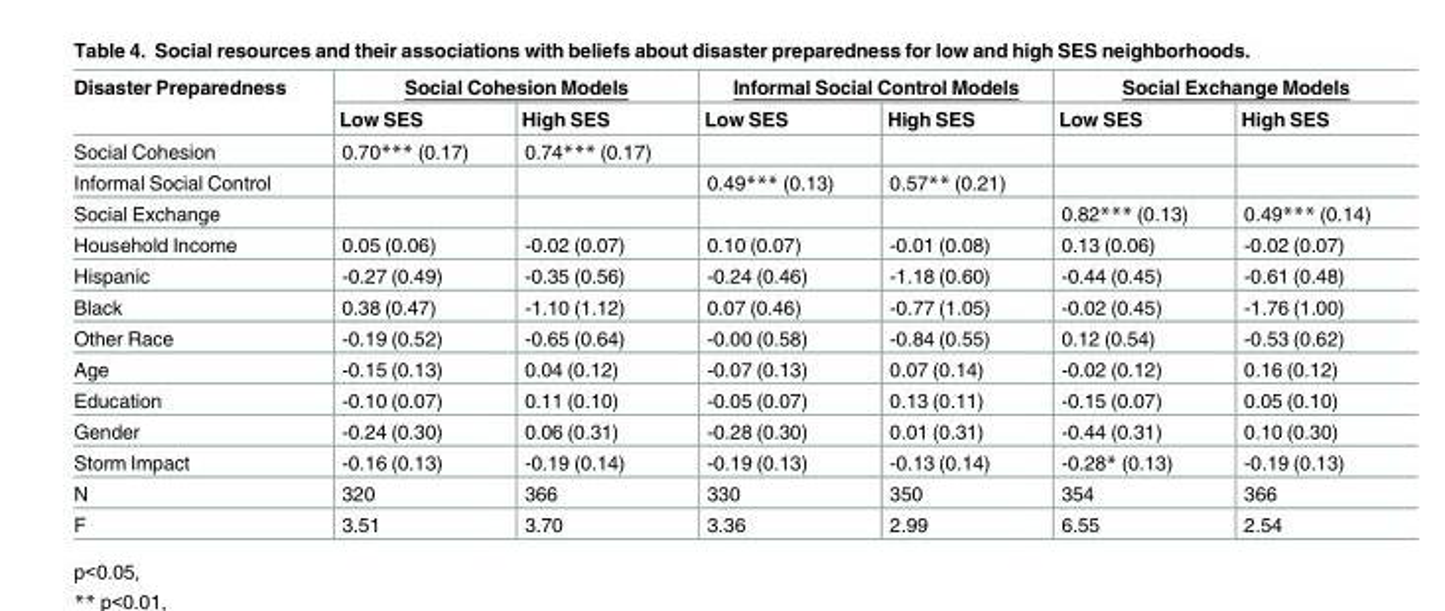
<table><thead><tr><td rowspan="2">Disaster Preparedness</td><td colspan="2">Social Cohesion Models</td><td colspan="2">Informal Social Control Models</td><td colspan="2">Social Exchange Models</td></tr><tr><td>Low SES</td><td>High SES</td><td>Low SES</td><td>High SES</td><td>Low SES</td><td>High SES</td></tr></thead><tbody><tr><td>Social Cohesion</td><td>0.70*** (0.17)</td><td>0.74*** (0.17)</td><td></td><td></td><td></td><td></td></tr><tr><td>Informal Social Control</td><td></td><td></td><td>0.49*** (0.13)</td><td>0.57** (0.21)</td><td></td><td></td></tr><tr><td>Social Exchange</td><td></td><td></td><td></td><td></td><td>0.82*** (0.13)</td><td>0.49*** (0.14)</td></tr><tr><td>Household Income</td><td>0.05 (0.06)</td><td>-0.02 (0.07)</td><td>0.10 (0.07)</td><td>-0.01 (0.08)</td><td>0.13 (0.06)</td><td>-0.02 (0.07)</td></tr><tr><td>Hispanic</td><td>-0.27 (0.49)</td><td>-0.35 (0.56)</td><td>-0.24 (0.46)</td><td>-1.18 (0.60)</td><td>-0.44 (0.45)</td><td>-0.61 (0.48)</td></tr><tr><td>Black</td><td>0.38 (0.47)</td><td>-1.10 (1.12)</td><td>0.07 (0.46)</td><td>-0.77 (1.05)</td><td>-0.02 (0.45)</td><td>-1.76 (1.00)</td></tr><tr><td>Other Race</td><td>-0.19 (0.52)</td><td>-0.65 (0.64)</td><td>-0.00 (0.58)</td><td>-0.84 (0.55)</td><td>0.12 (0.54)</td><td>-0.53 (0.62)</td></tr><tr><td>Age</td><td>-0.15 (0.13)</td><td>0.04 (0.12)</td><td>-0.07 (0.13)</td><td>0.07 (0.14)</td><td>-0.02 (0.12)</td><td>0.16 (0.12)</td></tr><tr><td>Education</td><td>-0.10 (0.07)</td><td>0.11 (0.10)</td><td>-0.05 (0.07)</td><td>0.13 (0.11)</td><td>-0.15 (0.07)</td><td>0.05 (0.10)</td></tr><tr><td>Gender</td><td>-0.24 (0.30)</td><td>0.06 (0.31)</td><td>-0.28 (0.30)</td><td>0.01 (0.31)</td><td>-0.44 (0.31)</td><td>0.10 (0.30)</td></tr><tr><td>Storm Impact</td><td>-0.16 (0.13)</td><td>-0.19 (0.14)</td><td>-0.19 (0.13)</td><td>-0.13 (0.14)</td><td>-0.28* (0.13)</td><td>-0.19 (0.13)</td></tr><tr><td>N</td><td>320</td><td>366</td><td>330</td><td>350</td><td>354</td><td>366</td></tr><tr><td>F</td><td>3.51</td><td>3.70</td><td>3.36</td><td>2.99</td><td>6.55</td><td>2.54</td></tr></tbody></table>